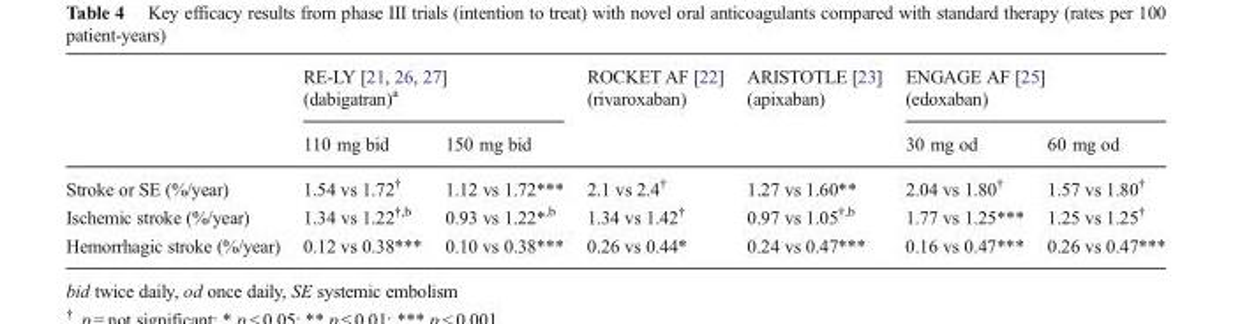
<table><thead><tr><td rowspan="2"></td><td colspan="2">RE-LY [21, 26, 27] (dabigatran)<sup>a</sup></td><td rowspan="2">ROCKET AF [22] (rivaroxaban)</td><td rowspan="2">ARISTOTLE [23] (apixaban)</td><td colspan="2">ENGAGE AF [25] (edoxaban)</td></tr><tr><td>110 mg bid</td><td>150 mg bid</td><td>30 mg od</td><td>60 mg od</td></tr></thead><tbody><tr><td>Stroke or SE (%/year)</td><td>1.54 vs 1.72<sup>†</sup></td><td>1.12 vs 1.72***</td><td>2.1 vs 2.4<sup>†</sup></td><td>1.27 vs 1.60**</td><td>2.04 vs 1.80<sup>†</sup></td><td>1.57 vs 1.80<sup>†</sup></td></tr><tr><td>Ischemic stroke (%/year)</td><td>1.34 vs 1.22<sup>†,b</sup></td><td>0.93 vs 1.22*<sup>,b</sup></td><td>1.34 vs 1.42<sup>†</sup></td><td>0.97 vs 1.05<sup>†,b</sup></td><td>1.77 vs 1.25***</td><td>1.25 vs 1.25<sup>†</sup></td></tr><tr><td>Hemorrhagic stroke (%/year)</td><td>0.12 vs 0.38***</td><td>0.10 vs 0.38***</td><td>0.26 vs 0.44*</td><td>0.24 vs 0.47***</td><td>0.16 vs 0.47***</td><td>0.26 vs 0.47***</td></tr></tbody></table>